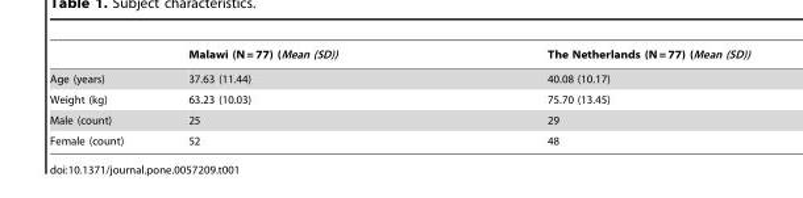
<table><thead><tr><td></td><td>Malawi (N = 77) (Mean (SD))</td><td>The Netherlands (N = 77) (Mean (SD))</td></tr></thead><tbody><tr><td>Age (years)</td><td>37.63 (11.44)</td><td>40.08 (10.17)</td></tr><tr><td>Weight (kg)</td><td>63.23 (10.03)</td><td>75.70 (13.45)</td></tr><tr><td>Male (count)</td><td>25</td><td>29</td></tr><tr><td>Female (count)</td><td>52</td><td>48</td></tr></tbody></table>